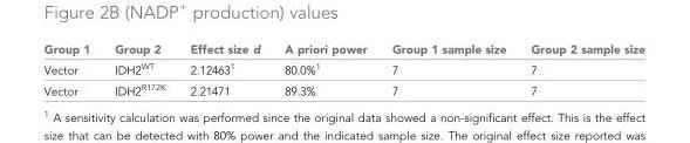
<table><thead><tr><td>Group 1</td><td>Group 2</td><td>Effect size d</td><td>A priori power</td><td>Group 1 sample size</td><td>Group 2 sample size</td></tr></thead><tbody><tr><td>Vector</td><td>IDH2<sup>WT</sup></td><td>2.12463<sup>1</sup></td><td>80.0%<sup>1</sup></td><td>7</td><td>7</td></tr><tr><td>Vector</td><td>IDH2<sup>R172K</sup></td><td>2.21471</td><td>89.3%</td><td>7</td><td>7</td></tr></tbody></table>